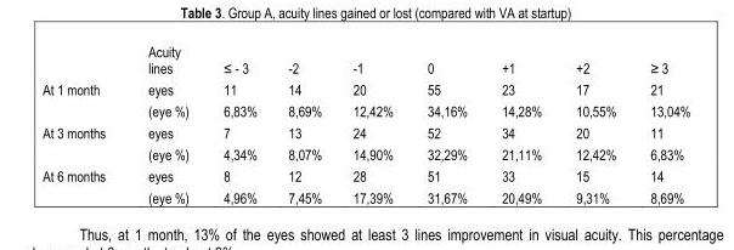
<table><thead><tr><td></td><td>Acuity lines</td><td>≤ - 3</td><td>-2</td><td>-1</td><td>0</td><td>+1</td><td>+2</td><td>≥ 3</td></tr></thead><tbody><tr><td rowspan="2">At 1 month</td><td>eyes</td><td>11</td><td>14</td><td>20</td><td>55</td><td>23</td><td>17</td><td>21</td></tr><tr><td>(eye %)</td><td>6,83%</td><td>8,69%</td><td>12,42%</td><td>34,16%</td><td>14,28%</td><td>10,55%</td><td>13,04%</td></tr><tr><td rowspan="2">At 3 months</td><td>eyes</td><td>7</td><td>13</td><td>24</td><td>52</td><td>34</td><td>20</td><td>11</td></tr><tr><td>(eye %)</td><td>4,34%</td><td>8,07%</td><td>14,90%</td><td>32,29%</td><td>21,11%</td><td>12,42%</td><td>6,83%</td></tr><tr><td rowspan="2">At 6 months</td><td>eyes</td><td>8</td><td>12</td><td>28</td><td>51</td><td>33</td><td>15</td><td>14</td></tr><tr><td>(eye %)</td><td>4,96%</td><td>7,45%</td><td>17,39%</td><td>31,67%</td><td>20,49%</td><td>9,31%</td><td>8,69%</td></tr></tbody></table>